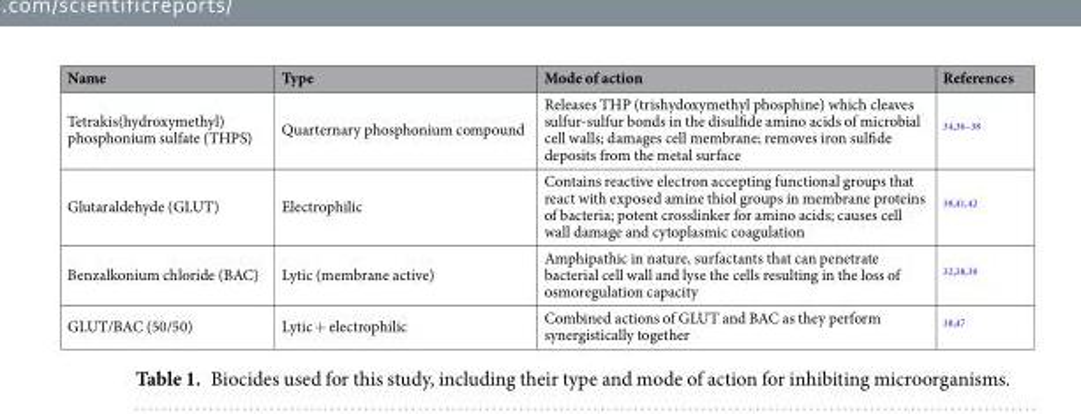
<table><thead><tr><td>Name</td><td>Type</td><td>Mode of action</td><td>References</td></tr></thead><tbody><tr><td>Tetrakis(hydroxymethyl) phosphonium sulfate (THPS)</td><td>Quarternary phosphonium compound</td><td>Releases THP (trishydoxymethyl phosphine) which cleaves sulfur-sulfur bonds in the disulfide amino acids of microbial cell walls; damages cell membrane; removes iron sulfide deposits from the metal surface</td><td><sup>34,36–38</sup></td></tr><tr><td>Glutaraldehyde (GLUT)</td><td>Electrophilic</td><td>Contains reactive electron accepting functional groups that react with exposed amine thiol groups in membrane proteins of bacteria; potent crosslinker for amino acids; causes cell wall damage and cytoplasmic coagulation</td><td><sup>38,41,42</sup></td></tr><tr><td>Benzalkonium chloride (BAC)</td><td>Lytic (membrane active)</td><td>Amphipathic in nature, surfactants that can penetrate bacterial cell wall and lyse the cells resulting in the loss of osmoregulation capacity</td><td><sup>32,38,39</sup></td></tr><tr><td>GLUT/BAC (50/50)</td><td>Lytic + electrophilic</td><td>Combined actions of GLUT and BAC as they perform synergistically together</td><td><sup>38,47</sup></td></tr></tbody></table>